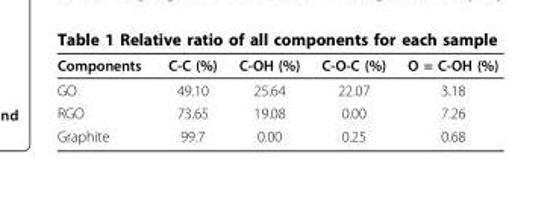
<table><thead><tr><td>Components</td><td>C-C (%)</td><td>C-OH (%)</td><td>C-O-C (%)</td><td>O = C-OH (%)</td></tr></thead><tbody><tr><td>GO</td><td>49.10</td><td>25.64</td><td>22.07</td><td>3.18</td></tr><tr><td>RGO</td><td>73.65</td><td>19.08</td><td>0.00</td><td>7.26</td></tr><tr><td>Graphite</td><td>99.7</td><td>0.00</td><td>0.25</td><td>0.68</td></tr></tbody></table>